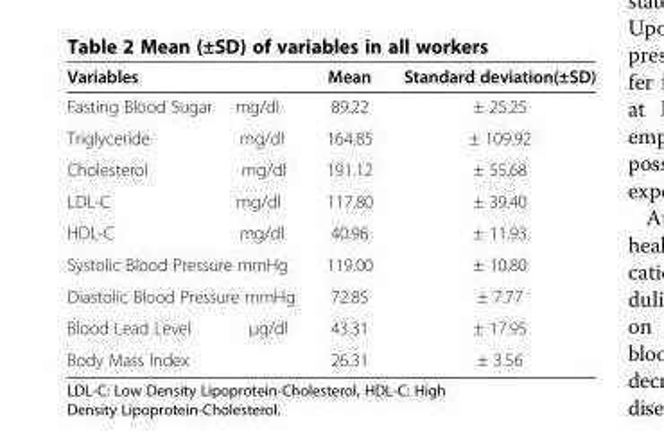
<table><thead><tr><td>Variables</td><td>Mean</td><td>Standard deviation(±SD)</td></tr></thead><tbody><tr><td>Fasting Blood Sugar mg/dl</td><td>89.22</td><td>± 25.25</td></tr><tr><td>Triglyceride mg/dl</td><td>164.85</td><td>± 109.92</td></tr><tr><td>Cholesterol mg/dl</td><td>191.12</td><td>± 55.68</td></tr><tr><td>LDL-C mg/dl</td><td>117.80</td><td>± 39.40</td></tr><tr><td>HDL-C mg/dl</td><td>40.96</td><td>± 11.93</td></tr><tr><td>Systolic Blood Pressure mmHg</td><td>119.00</td><td>± 10.80</td></tr><tr><td>Diastolic Blood Pressure mmHg</td><td>72.85</td><td>± 7.77</td></tr><tr><td>Blood Lead Level μg/dl</td><td>43.31</td><td>± 17.95</td></tr><tr><td>Body Mass Index</td><td>26.31</td><td>± 3.56</td></tr></tbody></table>